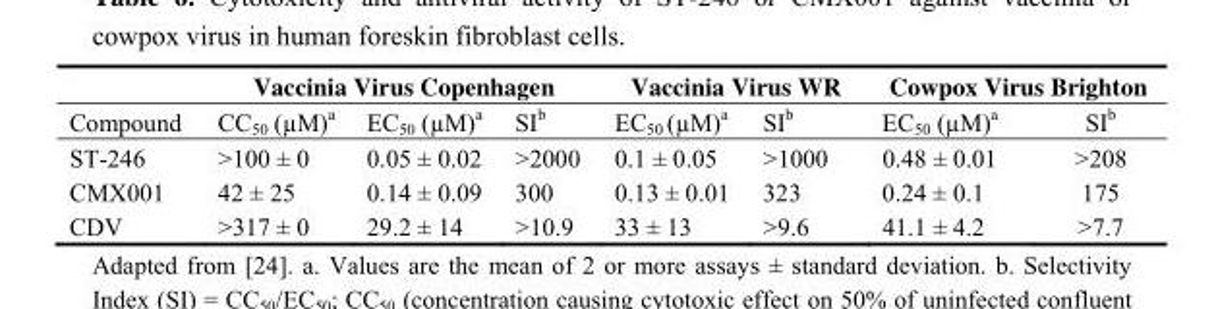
<table><thead><tr><td rowspan="2">Compound</td><td colspan="3">Vaccinia Virus Copenhagen</td><td colspan="2">Vaccinia Virus WR</td><td colspan="2">Cowpox Virus Brighton</td></tr><tr><td>CC<sub>50</sub> (µM)<sup>a</sup></td><td>EC<sub>50</sub> (µM)<sup>a</sup></td><td>SI<sup>b</sup></td><td>EC<sub>50</sub> (µM)<sup>a</sup></td><td>SI<sup>b</sup></td><td>EC<sub>50</sub> (µM)<sup>a</sup></td><td>SI<sup>b</sup></td></tr></thead><tbody><tr><td>ST-246</td><td>&gt;100 ± 0</td><td>0.05 ± 0.02</td><td>&gt;2000</td><td>0.1 ± 0.05</td><td>&gt;1000</td><td>0.48 ± 0.01</td><td>&gt;208</td></tr><tr><td>CMX001</td><td>42 ± 25</td><td>0.14 ± 0.09</td><td>300</td><td>0.13 ± 0.01</td><td>323</td><td>0.24 ± 0.1</td><td>175</td></tr><tr><td>CDV</td><td>&gt;317 ± 0</td><td>29.2 ± 14</td><td>&gt;10.9</td><td>33 ± 13</td><td>&gt;9.6</td><td>41.1 ± 4.2</td><td>&gt;7.7</td></tr></tbody></table>